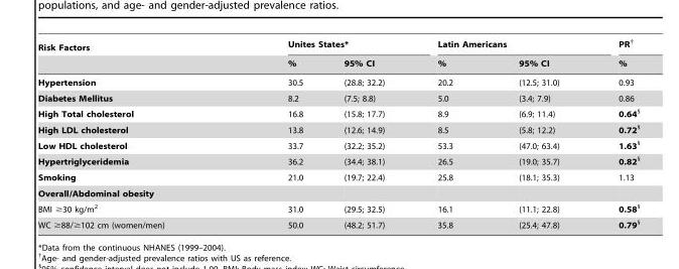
<table><thead><tr><td rowspan="2">Risk Factors</td><td colspan="2">Unites States*</td><td colspan="2">Latin Americans</td><td rowspan="2">PR† %</td></tr><tr><td>%</td><td>95% CI</td><td>%</td><td>95% CI</td></tr></thead><tbody><tr><td>Hypertension</td><td>30.5</td><td>(28.8; 32.2)</td><td>20.2</td><td>(12.5; 31.0)</td><td>0.93</td></tr><tr><td>Diabetes Mellitus</td><td>8.2</td><td>(7.5; 8.8)</td><td>5.0</td><td>(3.4; 7.9)</td><td>0.86</td></tr><tr><td>High Total cholesterol</td><td>16.8</td><td>(15.8; 17.7)</td><td>8.9</td><td>(6.9; 11.4)</td><td>0.64§</td></tr><tr><td>High LDL cholesterol</td><td>13.8</td><td>(12.6; 14.9)</td><td>8.5</td><td>(5.8; 12.2)</td><td>0.72§</td></tr><tr><td>Low HDL cholesterol</td><td>33.7</td><td>(32.2; 35.2)</td><td>53.3</td><td>(47.0; 63.4)</td><td>1.63§</td></tr><tr><td>Hypertriglyceridemia</td><td>36.2</td><td>(34.4; 38.1)</td><td>26.5</td><td>(19.0; 35.7)</td><td>0.82§</td></tr><tr><td>Smoking</td><td>21.0</td><td>(19.7; 22.4)</td><td>25.8</td><td>(18.1; 35.3)</td><td>1.13</td></tr><tr><td colspan="6">Overall/Abdominal obesity</td></tr><tr><td>BMI ≥30 kg/m<sup>2</sup></td><td>31.0</td><td>(29.5; 32.5)</td><td>16.1</td><td>(11.1; 22.8)</td><td>0.58§</td></tr><tr><td>WC ≥88/≥102 cm (women/men)</td><td>50.0</td><td>(48.2; 51.7)</td><td>35.8</td><td>(25.4; 47.8)</td><td>0.79§</td></tr></tbody></table>